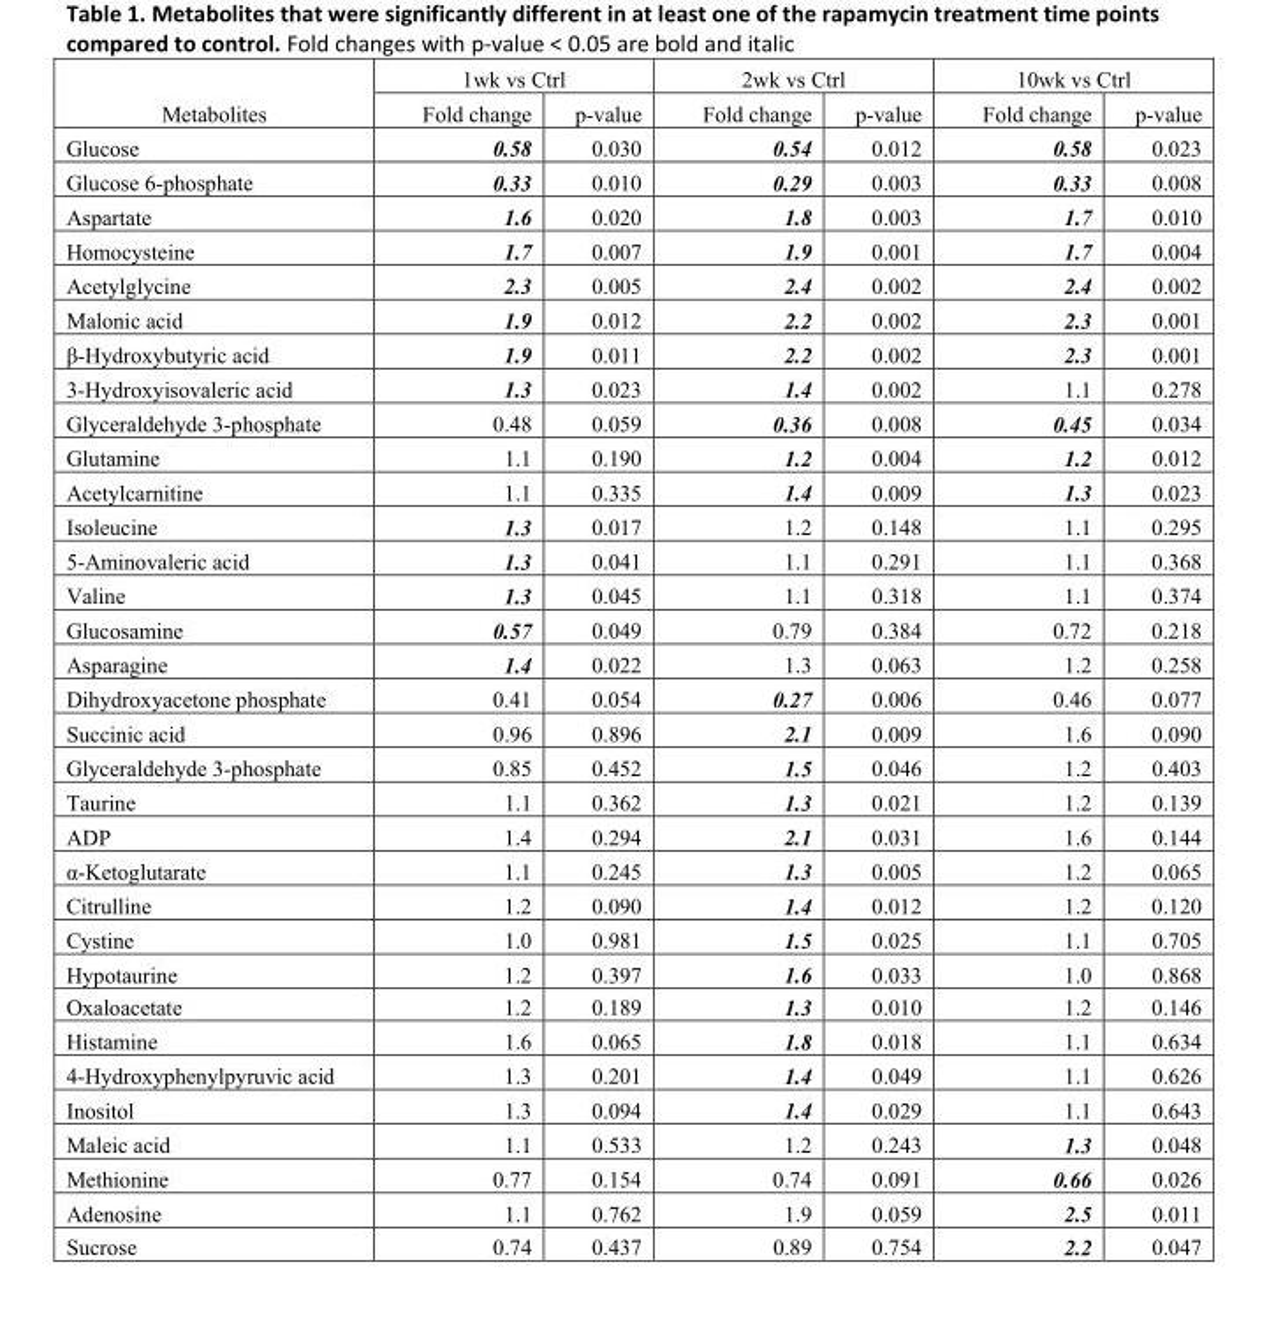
<table><thead><tr><td rowspan="2">Metabolites</td><td colspan="2">1wk vs Ctrl</td><td colspan="2">2wk vs Ctrl</td><td colspan="2">10wk vs Ctrl</td></tr><tr><td>Fold change</td><td>p-value</td><td>Fold change</td><td>p-value</td><td>Fold change</td><td>p-value</td></tr></thead><tbody><tr><td>Glucose</td><td>0.58</td><td>0.030</td><td>0.54</td><td>0.012</td><td>0.58</td><td>0.023</td></tr><tr><td>Glucose 6-phosphate</td><td>0.33</td><td>0.010</td><td>0.29</td><td>0.003</td><td>0.33</td><td>0.008</td></tr><tr><td>Aspartate</td><td>1.6</td><td>0.020</td><td>1.8</td><td>0.003</td><td>1.7</td><td>0.010</td></tr><tr><td>Homocysteine</td><td>1.7</td><td>0.007</td><td>1.9</td><td>0.001</td><td>1.7</td><td>0.004</td></tr><tr><td>Acetylglycine</td><td>2.3</td><td>0.005</td><td>2.4</td><td>0.002</td><td>2.4</td><td>0.002</td></tr><tr><td>Malonic acid</td><td>1.9</td><td>0.012</td><td>2.2</td><td>0.002</td><td>2.3</td><td>0.001</td></tr><tr><td>β-Hydroxybutyric acid</td><td>1.9</td><td>0.011</td><td>2.2</td><td>0.002</td><td>2.3</td><td>0.001</td></tr><tr><td>3-Hydroxyisovaleric acid</td><td>1.3</td><td>0.023</td><td>1.4</td><td>0.002</td><td>1.1</td><td>0.278</td></tr><tr><td>Glyceraldehyde 3-phosphate</td><td>0.48</td><td>0.059</td><td>0.36</td><td>0.008</td><td>0.45</td><td>0.034</td></tr><tr><td>Glutamine</td><td>1.1</td><td>0.190</td><td>1.2</td><td>0.004</td><td>1.2</td><td>0.012</td></tr><tr><td>Acetylcarnitine</td><td>1.1</td><td>0.335</td><td>1.4</td><td>0.009</td><td>1.3</td><td>0.023</td></tr><tr><td>Isoleucine</td><td>1.3</td><td>0.017</td><td>1.2</td><td>0.148</td><td>1.1</td><td>0.295</td></tr><tr><td>5-Aminovaleric acid</td><td>1.3</td><td>0.041</td><td>1.1</td><td>0.291</td><td>1.1</td><td>0.368</td></tr><tr><td>Valine</td><td>1.3</td><td>0.045</td><td>1.1</td><td>0.318</td><td>1.1</td><td>0.374</td></tr><tr><td>Glucosamine</td><td>0.57</td><td>0.049</td><td>0.79</td><td>0.384</td><td>0.72</td><td>0.218</td></tr><tr><td>Asparagine</td><td>1.4</td><td>0.022</td><td>1.3</td><td>0.063</td><td>1.2</td><td>0.258</td></tr><tr><td>Dihydroxyacetone phosphate</td><td>0.41</td><td>0.054</td><td>0.27</td><td>0.006</td><td>0.46</td><td>0.077</td></tr><tr><td>Succinic acid</td><td>0.96</td><td>0.896</td><td>2.1</td><td>0.009</td><td>1.6</td><td>0.090</td></tr><tr><td>Glyceraldehyde 3-phosphate</td><td>0.85</td><td>0.452</td><td>1.5</td><td>0.046</td><td>1.2</td><td>0.403</td></tr><tr><td>Taurine</td><td>1.1</td><td>0.362</td><td>1.3</td><td>0.021</td><td>1.2</td><td>0.139</td></tr><tr><td>ADP</td><td>1.4</td><td>0.294</td><td>2.1</td><td>0.031</td><td>1.6</td><td>0.144</td></tr><tr><td>α-Ketoglutarate</td><td>1.1</td><td>0.245</td><td>1.3</td><td>0.005</td><td>1.2</td><td>0.065</td></tr><tr><td>Citrulline</td><td>1.2</td><td>0.090</td><td>1.4</td><td>0.012</td><td>1.2</td><td>0.120</td></tr><tr><td>Cystine</td><td>1.0</td><td>0.981</td><td>1.5</td><td>0.025</td><td>1.1</td><td>0.705</td></tr><tr><td>Hypotaurine</td><td>1.2</td><td>0.397</td><td>1.6</td><td>0.033</td><td>1.0</td><td>0.868</td></tr><tr><td>Oxaloacetate</td><td>1.2</td><td>0.189</td><td>1.3</td><td>0.010</td><td>1.2</td><td>0.146</td></tr><tr><td>Histamine</td><td>1.6</td><td>0.065</td><td>1.8</td><td>0.018</td><td>1.1</td><td>0.634</td></tr><tr><td>4-Hydroxyphenylpyruvic acid</td><td>1.3</td><td>0.201</td><td>1.4</td><td>0.049</td><td>1.1</td><td>0.626</td></tr><tr><td>Inositol</td><td>1.3</td><td>0.094</td><td>1.4</td><td>0.029</td><td>1.1</td><td>0.643</td></tr><tr><td>Maleic acid</td><td>1.1</td><td>0.533</td><td>1.2</td><td>0.243</td><td>1.3</td><td>0.048</td></tr><tr><td>Methionine</td><td>0.77</td><td>0.154</td><td>0.74</td><td>0.091</td><td>0.66</td><td>0.026</td></tr><tr><td>Adenosine</td><td>1.1</td><td>0.762</td><td>1.9</td><td>0.059</td><td>2.5</td><td>0.011</td></tr><tr><td>Sucrose</td><td>0.74</td><td>0.437</td><td>0.89</td><td>0.754</td><td>2.2</td><td>0.047</td></tr></tbody></table>